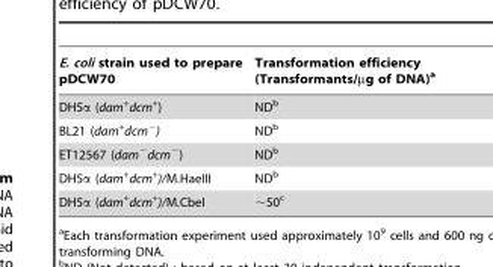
<table><thead><tr><td>E. coli strain used to prepare pDCW70</td><td>Transformation efficiency (Transformants/µg of DNA)<sup>a</sup></td></tr></thead><tbody><tr><td>DH5α (dam<sup>+</sup>dcm<sup>+</sup>)</td><td>ND<sup>b</sup></td></tr><tr><td>BL21 (dam<sup>+</sup>dcm<sup>−</sup>)</td><td>ND<sup>b</sup></td></tr><tr><td>ET12567 (dam<sup>−</sup>dcm<sup>−</sup>)</td><td>ND<sup>b</sup></td></tr><tr><td>DH5α (dam<sup>+</sup>dcm<sup>+</sup>)/M.HaeIII</td><td>ND<sup>b</sup></td></tr><tr><td>DH5α (dam<sup>+</sup>dcm<sup>+</sup>)/M.CbeI</td><td>∼50<sup>c</sup></td></tr></tbody></table>